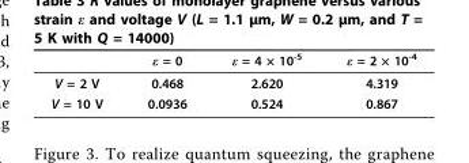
<table><thead><tr><td></td><td>ε = 0</td><td>ε = 4 × 10<sup>-5</sup></td><td>ε = 2 × 10<sup>-4</sup></td></tr></thead><tbody><tr><td>V = 2 V</td><td>0.468</td><td>2.620</td><td>4.319</td></tr><tr><td>V = 10 V</td><td>0.0936</td><td>0.524</td><td>0.867</td></tr></tbody></table>